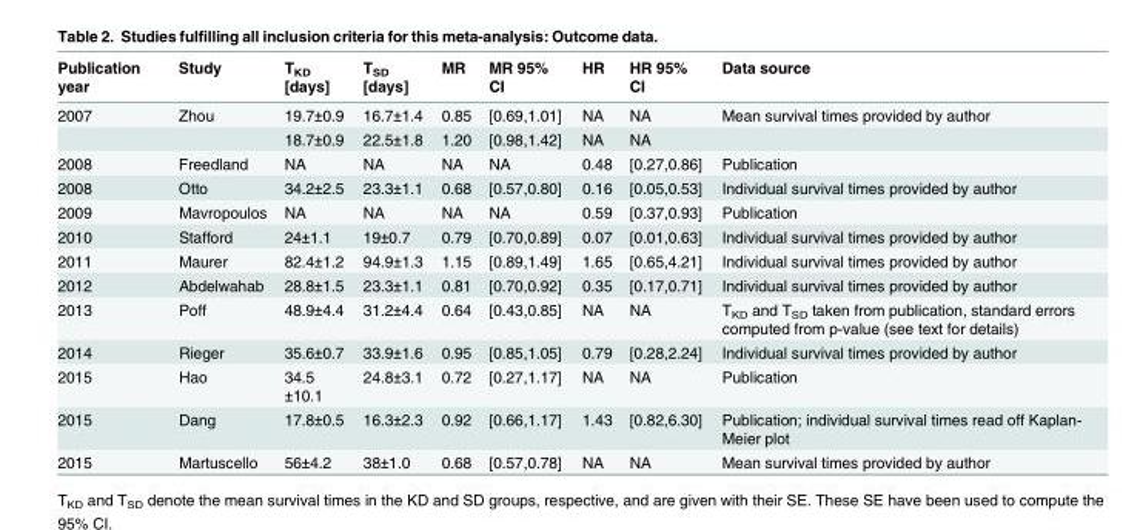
<table><thead><tr><td>Publication year</td><td>Study</td><td>T<sub>KD</sub> [days]</td><td>T<sub>SD</sub> [days]</td><td>MR</td><td>MR 95% CI</td><td>HR</td><td>HR 95% CI</td><td>Data source</td></tr></thead><tbody><tr><td rowspan="2">2007</td><td>Zhou</td><td>19.7±0.9</td><td>16.7±1.4</td><td>0.85</td><td>[0.69,1.01]</td><td>NA</td><td>NA</td><td>Mean survival times provided by author</td></tr><tr><td></td><td>18.7±0.9</td><td>22.5±1.8</td><td>1.20</td><td>[0.98,1.42]</td><td>NA</td><td>NA</td><td></td></tr><tr><td>2008</td><td>Freedland</td><td>NA</td><td>NA</td><td>NA</td><td>NA</td><td>0.48</td><td>[0.27,0.86]</td><td>Publication</td></tr><tr><td>2008</td><td>Otto</td><td>34.2±2.5</td><td>23.3±1.1</td><td>0.68</td><td>[0.57,0.80]</td><td>0.16</td><td>[0.05,0.53]</td><td>Individual survival times provided by author</td></tr><tr><td>2009</td><td>Mavropoulos</td><td>NA</td><td>NA</td><td>NA</td><td>NA</td><td>0.59</td><td>[0.37,0.93]</td><td>Publication</td></tr><tr><td>2010</td><td>Stafford</td><td>24±1.1</td><td>19±0.7</td><td>0.79</td><td>[0.70,0.89]</td><td>0.07</td><td>[0.01,0.63]</td><td>Individual survival times provided by author</td></tr><tr><td>2011</td><td>Maurer</td><td>82.4±1.2</td><td>94.9±1.3</td><td>1.15</td><td>[0.89,1.49]</td><td>1.65</td><td>[0.65,4.21]</td><td>Individual survival times provided by author</td></tr><tr><td>2012</td><td>Abdelwahab</td><td>28.8±1.5</td><td>23.3±1.1</td><td>0.81</td><td>[0.70,0.92]</td><td>0.35</td><td>[0.17,0.71]</td><td>Individual survival times provided by author</td></tr><tr><td>2013</td><td>Poff</td><td>48.9±4.4</td><td>31.2±4.4</td><td>0.64</td><td>[0.43,0.85]</td><td>NA</td><td>NA</td><td>T<sub>KD</sub> and T<sub>SD</sub> taken from publication, standard errors computed from p-value (see text for details)</td></tr><tr><td>2014</td><td>Rieger</td><td>35.6±0.7</td><td>33.9±1.6</td><td>0.95</td><td>[0.85,1.05]</td><td>0.79</td><td>[0.28,2.24]</td><td>Individual survival times provided by author</td></tr><tr><td>2015</td><td>Hao</td><td>34.5 ±10.1</td><td>24.8±3.1</td><td>0.72</td><td>[0.27,1.17]</td><td>NA</td><td>NA</td><td>Publication</td></tr><tr><td>2015</td><td>Dang</td><td>17.8±0.5</td><td>16.3±2.3</td><td>0.92</td><td>[0.66,1.17]</td><td>1.43</td><td>[0.82,6.30]</td><td>Publication; individual survival times read off Kaplan- Meier plot</td></tr><tr><td>2015</td><td>Martuscello</td><td>56±4.2</td><td>38±1.0</td><td>0.68</td><td>[0.57,0.78]</td><td>NA</td><td>NA</td><td>Mean survival times provided by author</td></tr></tbody></table>